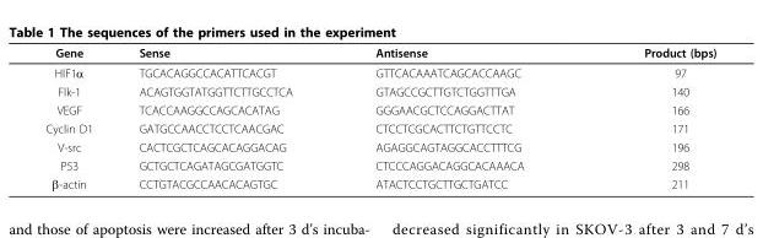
<table><thead><tr><td>Gene</td><td>Sense</td><td>Antisense</td><td>Product (bps)</td></tr></thead><tbody><tr><td>HIF1α</td><td>TGCACAGGCCACATTCACGT</td><td>GTTCACAAATCAGCACCAAGC</td><td>97</td></tr><tr><td>Flk-1</td><td>ACAGTGGTATGGTTCTTGCCTCA</td><td>GTAGCCGCTTGTCTGGTTTGA</td><td>140</td></tr><tr><td>VEGF</td><td>TCACCAAGGCCAGCACATAG</td><td>GGGAACGCTCCAGGACTTAT</td><td>166</td></tr><tr><td>Cyclin D1</td><td>GATGCCAACCTCCTCAACGAC</td><td>CTCCTCGCACTTCTGTTCCTC</td><td>171</td></tr><tr><td>V-src</td><td>CACTCGCTCAGCACAGGACAG</td><td>AGAGGCAGTAGGCACCTTTCG</td><td>196</td></tr><tr><td>P53</td><td>GCTGCTCAGATAGCGATGGTC</td><td>CTCCCAGGACAGGCACAAACA</td><td>298</td></tr><tr><td>β-actin</td><td>CCTGTACGCCAACACAGTGC</td><td>ATACTCCTGCTTGCTGATCC</td><td>211</td></tr></tbody></table>